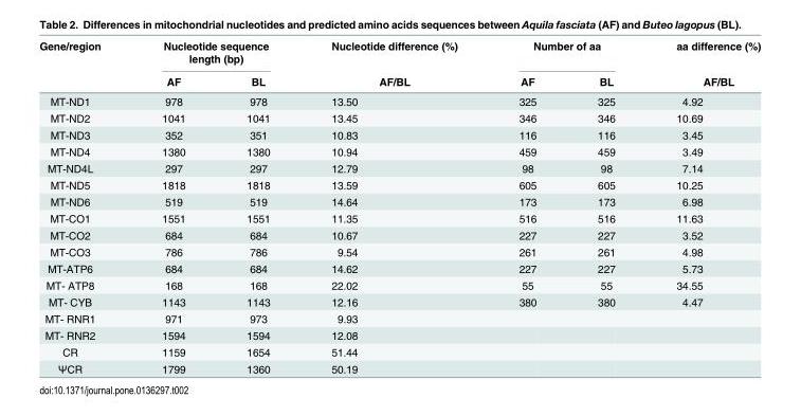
<table><thead><tr><td rowspan="2">Gene/region</td><td colspan="2">Nucleotide sequence length (bp)</td><td rowspan="2">Nucleotide difference (%) AF/BL</td><td colspan="2">Number of aa</td><td rowspan="2">aa difference (%) AF/BL</td></tr><tr><td>AF</td><td>BL</td><td>AF</td><td>BL</td></tr></thead><tbody><tr><td>MT-ND1</td><td>978</td><td>978</td><td>13.50</td><td>325</td><td>325</td><td>4.92</td></tr><tr><td>MT-ND2</td><td>1041</td><td>1041</td><td>13.45</td><td>346</td><td>346</td><td>10.69</td></tr><tr><td>MT-ND3</td><td>352</td><td>351</td><td>10.83</td><td>116</td><td>116</td><td>3.45</td></tr><tr><td>MT-ND4</td><td>1380</td><td>1380</td><td>10.94</td><td>459</td><td>459</td><td>3.49</td></tr><tr><td>MT-ND4L</td><td>297</td><td>297</td><td>12.79</td><td>98</td><td>98</td><td>7.14</td></tr><tr><td>MT-ND5</td><td>1818</td><td>1818</td><td>13.59</td><td>605</td><td>605</td><td>10.25</td></tr><tr><td>MT-ND6</td><td>519</td><td>519</td><td>14.64</td><td>173</td><td>173</td><td>6.98</td></tr><tr><td>MT-CO1</td><td>1551</td><td>1551</td><td>11.35</td><td>516</td><td>516</td><td>11.63</td></tr><tr><td>MT-CO2</td><td>684</td><td>684</td><td>10.67</td><td>227</td><td>227</td><td>3.52</td></tr><tr><td>MT-CO3</td><td>786</td><td>786</td><td>9.54</td><td>261</td><td>261</td><td>4.98</td></tr><tr><td>MT-ATP6</td><td>684</td><td>684</td><td>14.62</td><td>227</td><td>227</td><td>5.73</td></tr><tr><td>MT- ATP8</td><td>168</td><td>168</td><td>22.02</td><td>55</td><td>55</td><td>34.55</td></tr><tr><td>MT- CYB</td><td>1143</td><td>1143</td><td>12.16</td><td>380</td><td>380</td><td>4.47</td></tr><tr><td>MT- RNR1</td><td>971</td><td>973</td><td>9.93</td><td></td><td></td><td></td></tr><tr><td>MT- RNR2</td><td>1594</td><td>1594</td><td>12.08</td><td></td><td></td><td></td></tr><tr><td>CR</td><td>1159</td><td>1654</td><td>51.44</td><td></td><td></td><td></td></tr><tr><td>ΨCR</td><td>1799</td><td>1360</td><td>50.19</td><td></td><td></td><td></td></tr></tbody></table>